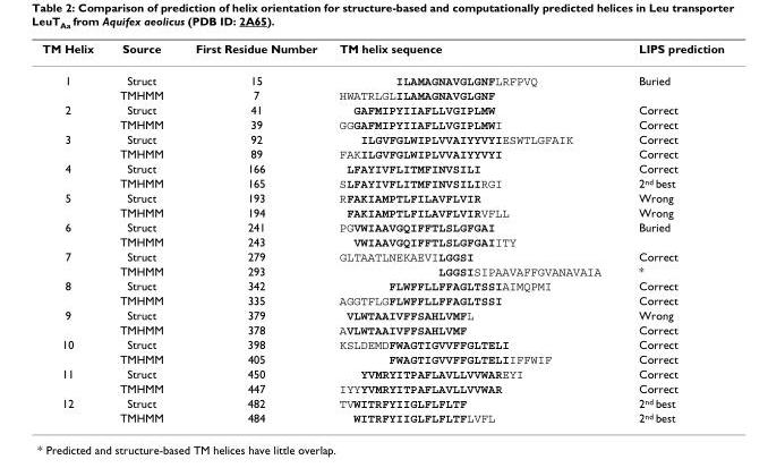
<table><thead><tr><td>TM Helix</td><td>Source</td><td>First Residue Number</td><td>TM helix sequence</td><td>LIPS prediction</td></tr></thead><tbody><tr><td rowspan="2">1</td><td>Struct</td><td>15</td><td>ILAMAGNAVGLGNFLRFPVQ</td><td>Buried</td></tr><tr><td>TMHMM</td><td>7</td><td>HWATRLGLILAMAGNAVGLGNF</td><td></td></tr><tr><td rowspan="2">2</td><td>Struct</td><td>41</td><td>GAFMIPYIIAFLLVGIPLMW</td><td>Correct</td></tr><tr><td>TMHMM</td><td>39</td><td>GGGAFMIPYIIAFLLVGIPLMWI</td><td>Correct</td></tr><tr><td rowspan="2">3</td><td>Struct</td><td>92</td><td>ILGVFGLWIPLVVAIYYVYIESWTLGFAIK</td><td>Correct</td></tr><tr><td>TMHMM</td><td>89</td><td>FAKILGVFGLWIPLVVAIYYVYI</td><td>Correct</td></tr><tr><td rowspan="2">4</td><td>Struct</td><td>166</td><td>LFAYIVFLITMFINVSILI</td><td>Correct</td></tr><tr><td>TMHMM</td><td>165</td><td>SLFAYIVFLITMFINVSILIRGI</td><td>2<sup>nd</sup> best</td></tr><tr><td rowspan="2">5</td><td>Struct</td><td>193</td><td>RFAKIAMPTLFILAVFLVIR</td><td>Wrong</td></tr><tr><td>TMHMM</td><td>194</td><td>FAKIAMPTLFILAVFLVIRVFLL</td><td>Wrong</td></tr><tr><td rowspan="2">6</td><td>Struct</td><td>241</td><td>PGVWIAAVGQIFFTLSLGFGAI</td><td>Buried</td></tr><tr><td>TMHMM</td><td>243</td><td>VWIAAVGQIFFTLSLGFGAIITY</td><td></td></tr><tr><td rowspan="2">7</td><td>Struct</td><td>279</td><td>GLTAATLNEKAEVILGGSI</td><td>Correct</td></tr><tr><td>TMHMM</td><td>293</td><td>LGGSISIPAAVAFFGVANAVAIA</td><td>*</td></tr><tr><td rowspan="2">8</td><td>Struct</td><td>342</td><td>FLWFFLLFFAGLTSSIAIMQPMI</td><td>Correct</td></tr><tr><td>TMHMM</td><td>335</td><td>AGGTFLGFLWFFLLFFAGLTSSI</td><td>Correct</td></tr><tr><td rowspan="2">9</td><td>Struct</td><td>379</td><td>VLWTAAIVFFSAHLVMFL</td><td>Wrong</td></tr><tr><td>TMHMM</td><td>378</td><td>AVLWTAAIVFFSAHLVMF</td><td>Correct</td></tr><tr><td rowspan="2">10</td><td>Struct</td><td>398</td><td>KSLDEMDFWAGTIGVVFFGLTELI</td><td>Correct</td></tr><tr><td>TMHMM</td><td>405</td><td>FWAGTIGVVFFGLTELIIFFWIF</td><td>Correct</td></tr><tr><td rowspan="2">11</td><td>Struct</td><td>450</td><td>YVMRYITPAFLAVLLVVWAREYI</td><td>Correct</td></tr><tr><td>TMHMM</td><td>447</td><td>IYYYVMRYITPAFLAVLLVVWAR</td><td>Correct</td></tr><tr><td rowspan="2">12</td><td>Struct</td><td>482</td><td>TVWITRFYIIGLFLFLTF</td><td>2<sup>nd</sup> best</td></tr><tr><td>TMHMM</td><td>484</td><td>WITRFYIIGLFLFLTFLVFL</td><td>2<sup>nd</sup> best</td></tr></tbody></table>